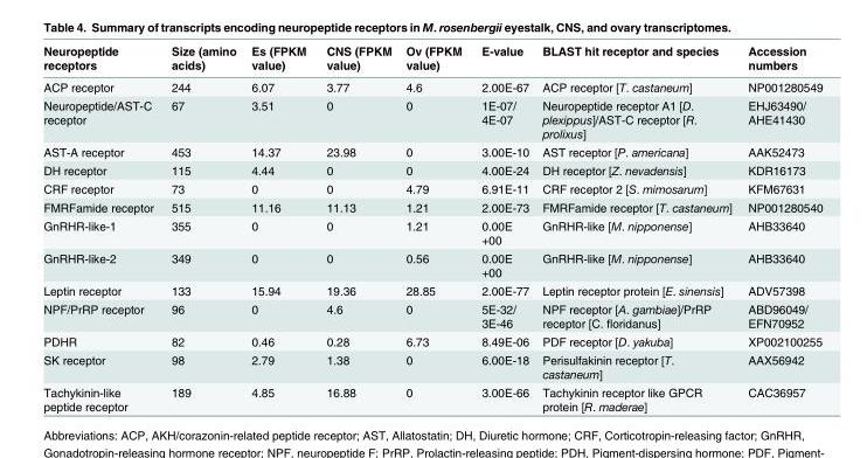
<table><thead><tr><td>Neuropeptide receptors</td><td>Size (amino acids)</td><td>Es (FPKM value)</td><td>CNS (FPKM value)</td><td>Ov (FPKM value)</td><td>E-value</td><td>BLAST hit receptor and species</td><td>Accession numbers</td></tr></thead><tbody><tr><td>ACP receptor</td><td>244</td><td>6.07</td><td>3.77</td><td>4.6</td><td>2.00E-67</td><td>ACP receptor [T. castaneum]</td><td>NP001280549</td></tr><tr><td>Neuropeptide/AST-C receptor</td><td>67</td><td>3.51</td><td>0</td><td>0</td><td>1E-07/ 4E-07</td><td>Neuropeptide receptor A1 [D. plexippus]/AST-C receptor [R. prolixus]</td><td>EHJ63490/ AHE41430</td></tr><tr><td>AST-A receptor</td><td>453</td><td>14.37</td><td>23.98</td><td>0</td><td>3.00E-10</td><td>AST receptor [P. americana]</td><td>AAK52473</td></tr><tr><td>DH receptor</td><td>115</td><td>4.44</td><td>0</td><td>0</td><td>4.00E-24</td><td>DH receptor [Z. nevadensis]</td><td>KDR16173</td></tr><tr><td>CRF receptor</td><td>73</td><td>0</td><td>0</td><td>4.79</td><td>6.91E-11</td><td>CRF receptor 2 [S. mimosarum]</td><td>KFM67631</td></tr><tr><td>FMRFamide receptor</td><td>515</td><td>11.16</td><td>11.13</td><td>1.21</td><td>2.00E-73</td><td>FMRFamide receptor [T. castaneum]</td><td>NP001280540</td></tr><tr><td>GnRHR-like-1</td><td>355</td><td>0</td><td>0</td><td>1.21</td><td>0.00E +00</td><td>GnRHR-like [M. nipponense]</td><td>AHB33640</td></tr><tr><td>GnRHR-like-2</td><td>349</td><td>0</td><td>0</td><td>0.56</td><td>0.00E +00</td><td>GnRHR-like [M. nipponense]</td><td>AHB33640</td></tr><tr><td>Leptin receptor</td><td>133</td><td>15.94</td><td>19.36</td><td>28.85</td><td>2.00E-77</td><td>Leptin receptor protein [E. sinensis]</td><td>ADV57398</td></tr><tr><td>NPF/PrRP receptor</td><td>96</td><td>0</td><td>4.6</td><td>0</td><td>5E-32/ 3E-46</td><td>NPF receptor [A. gambiae]/PrRP receptor [C. floridanus]</td><td>ABD96049/ EFN70952</td></tr><tr><td>PDHR</td><td>82</td><td>0.46</td><td>0.28</td><td>6.73</td><td>8.49E-06</td><td>PDF receptor [D. yakuba]</td><td>XP002100255</td></tr><tr><td>SK receptor</td><td>98</td><td>2.79</td><td>1.38</td><td>0</td><td>6.00E-18</td><td>Perisulfakinin receptor [T. castaneum]</td><td>AAX56942</td></tr><tr><td>Tachykinin-like peptide receptor</td><td>189</td><td>4.85</td><td>16.88</td><td>0</td><td>3.00E-66</td><td>Tachykinin receptor like GPCR protein [R. maderae]</td><td>CAC36957</td></tr></tbody></table>